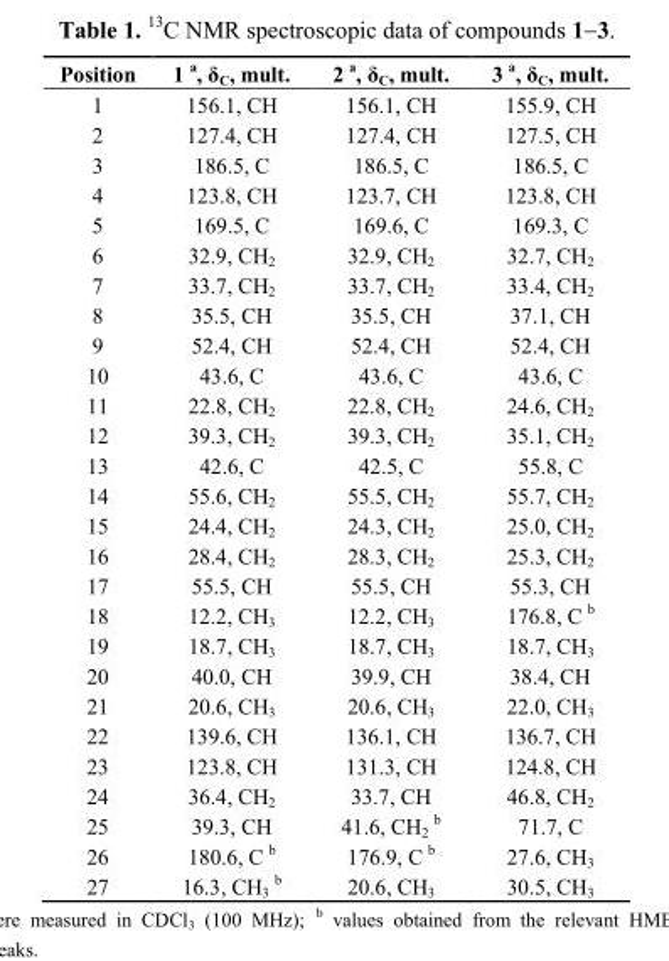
<table><thead><tr><td>Position</td><td>1 <sup>a</sup>, δ<sub>C</sub>, mult.</td><td>2 <sup>a</sup>, δ<sub>C</sub>, mult.</td><td>3 <sup>a</sup>, δ<sub>C</sub>, mult.</td></tr></thead><tbody><tr><td>1</td><td>156.1, CH</td><td>156.1, CH</td><td>155.9, CH</td></tr><tr><td>2</td><td>127.4, CH</td><td>127.4, CH</td><td>127.5, CH</td></tr><tr><td>3</td><td>186.5, C</td><td>186.5, C</td><td>186.5, C</td></tr><tr><td>4</td><td>123.8, CH</td><td>123.7, CH</td><td>123.8, CH</td></tr><tr><td>5</td><td>169.5, C</td><td>169.6, C</td><td>169.3, C</td></tr><tr><td>6</td><td>32.9, CH<sub>2</sub></td><td>32.9, CH<sub>2</sub></td><td>32.7, CH<sub>2</sub></td></tr><tr><td>7</td><td>33.7, CH<sub>2</sub></td><td>33.7, CH<sub>2</sub></td><td>33.4, CH<sub>2</sub></td></tr><tr><td>8</td><td>35.5, CH</td><td>35.5, CH</td><td>37.1, CH</td></tr><tr><td>9</td><td>52.4, CH</td><td>52.4, CH</td><td>52.4, CH</td></tr><tr><td>10</td><td>43.6, C</td><td>43.6, C</td><td>43.6, C</td></tr><tr><td>11</td><td>22.8, CH<sub>2</sub></td><td>22.8, CH<sub>2</sub></td><td>24.6, CH<sub>2</sub></td></tr><tr><td>12</td><td>39.3, CH<sub>2</sub></td><td>39.3, CH<sub>2</sub></td><td>35.1, CH<sub>2</sub></td></tr><tr><td>13</td><td>42.6, C</td><td>42.5, C</td><td>55.8, C</td></tr><tr><td>14</td><td>55.6, CH<sub>2</sub></td><td>55.5, CH<sub>2</sub></td><td>55.7, CH<sub>2</sub></td></tr><tr><td>15</td><td>24.4, CH<sub>2</sub></td><td>24.3, CH<sub>2</sub></td><td>25.0, CH<sub>2</sub></td></tr><tr><td>16</td><td>28.4, CH<sub>2</sub></td><td>28.3, CH<sub>2</sub></td><td>25.3, CH<sub>2</sub></td></tr><tr><td>17</td><td>55.5, CH</td><td>55.5, CH</td><td>55.3, CH</td></tr><tr><td>18</td><td>12.2, CH<sub>3</sub></td><td>12.2, CH<sub>3</sub></td><td>176.8, C <sup>b</sup></td></tr><tr><td>19</td><td>18.7, CH<sub>3</sub></td><td>18.7, CH<sub>3</sub></td><td>18.7, CH<sub>3</sub></td></tr><tr><td>20</td><td>40.0, CH</td><td>39.9, CH</td><td>38.4, CH</td></tr><tr><td>21</td><td>20.6, CH<sub>3</sub></td><td>20.6, CH<sub>3</sub></td><td>22.0, CH<sub>3</sub></td></tr><tr><td>22</td><td>139.6, CH</td><td>136.1, CH</td><td>136.7, CH</td></tr><tr><td>23</td><td>123.8, CH</td><td>131.3, CH</td><td>124.8, CH</td></tr><tr><td>24</td><td>36.4, CH<sub>2</sub></td><td>33.7, CH</td><td>46.8, CH<sub>2</sub></td></tr><tr><td>25</td><td>39.3, CH</td><td>41.6, CH<sub>2</sub> <sup>b</sup></td><td>71.7, C</td></tr><tr><td>26</td><td>180.6, C <sup>b</sup></td><td>176.9, C <sup>b</sup></td><td>27.6, CH<sub>3</sub></td></tr><tr><td>27</td><td>16.3, CH<sub>3</sub> <sup>b</sup></td><td>20.6, CH<sub>3</sub></td><td>30.5, CH<sub>3</sub></td></tr></tbody></table>